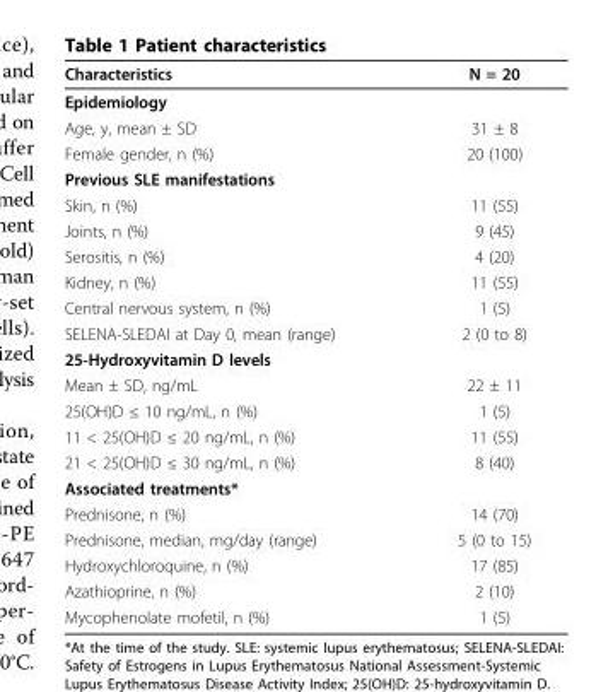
<table><thead><tr><td>Characteristics</td><td>N = 20</td></tr></thead><tbody><tr><td colspan="2">Epidemiology</td></tr><tr><td>Age, y, mean ± SD</td><td>31 ± 8</td></tr><tr><td>Female gender, n (%)</td><td>20 (100)</td></tr><tr><td colspan="2">Previous SLE manifestations</td></tr><tr><td>Skin, n (%)</td><td>11 (55)</td></tr><tr><td>Joints, n (%)</td><td>9 (45)</td></tr><tr><td>Serositis, n (%)</td><td>4 (20)</td></tr><tr><td>Kidney, n (%)</td><td>11 (55)</td></tr><tr><td>Central nervous system, n (%)</td><td>1 (5)</td></tr><tr><td>SELENA-SLEDAI at Day 0, mean (range)</td><td>2 (0 to 8)</td></tr><tr><td colspan="2">25-Hydroxyvitamin D levels</td></tr><tr><td>Mean ± SD, ng/mL</td><td>22 ± 11</td></tr><tr><td>25(OH)D ≤ 10 ng/mL, n (%)</td><td>1 (5)</td></tr><tr><td>11 &lt; 25(OH)D ≤ 20 ng/mL, n (%)</td><td>11 (55)</td></tr><tr><td>21 &lt; 25(OH)D ≤ 30 ng/mL, n (%)</td><td>8 (40)</td></tr><tr><td colspan="2">Associated treatments*</td></tr><tr><td>Prednisone, n (%)</td><td>14 (70)</td></tr><tr><td>Prednisone, median, mg/day (range)</td><td>5 (0 to 15)</td></tr><tr><td>Hydroxychloroquine, n (%)</td><td>17 (85)</td></tr><tr><td>Azathioprine, n (%)</td><td>2 (10)</td></tr><tr><td>Mycophenolate mofetil, n (%)</td><td>1 (5)</td></tr></tbody></table>